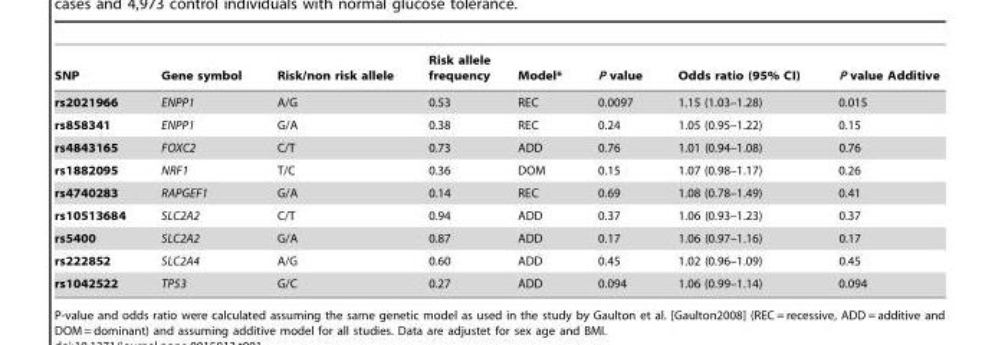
<table><thead><tr><td>SNP</td><td>Gene symbol</td><td>Risk/non risk allele</td><td>Risk allele frequency</td><td>Model*</td><td>P value</td><td>Odds ratio (95% CI)</td><td>P value Additive</td></tr></thead><tbody><tr><td>rs2021966</td><td>ENPP1</td><td>A/G</td><td>0.53</td><td>REC</td><td>0.0097</td><td>1.15 (1.03–1.28)</td><td>0.015</td></tr><tr><td>rs858341</td><td>ENPP1</td><td>G/A</td><td>0.38</td><td>REC</td><td>0.24</td><td>1.05 (0.95–1.22)</td><td>0.15</td></tr><tr><td>rs4843165</td><td>FOXC2</td><td>C/T</td><td>0.73</td><td>ADD</td><td>0.76</td><td>1.01 (0.94–1.08)</td><td>0.76</td></tr><tr><td>rs1882095</td><td>NRF1</td><td>T/C</td><td>0.36</td><td>DOM</td><td>0.15</td><td>1.07 (0.98–1.17)</td><td>0.26</td></tr><tr><td>rs4740283</td><td>RAPGEF1</td><td>G/A</td><td>0.14</td><td>REC</td><td>0.69</td><td>1.08 (0.78–1.49)</td><td>0.41</td></tr><tr><td>rs10513684</td><td>SLC2A2</td><td>C/T</td><td>0.94</td><td>ADD</td><td>0.37</td><td>1.06 (0.93–1.23)</td><td>0.37</td></tr><tr><td>rs5400</td><td>SLC2A2</td><td>G/A</td><td>0.87</td><td>ADD</td><td>0.17</td><td>1.06 (0.97–1.16)</td><td>0.17</td></tr><tr><td>rs222852</td><td>SLC2A4</td><td>A/G</td><td>0.60</td><td>ADD</td><td>0.45</td><td>1.02 (0.96–1.09)</td><td>0.45</td></tr><tr><td>rs1042522</td><td>TP53</td><td>G/C</td><td>0.27</td><td>ADD</td><td>0.094</td><td>1.06 (0.99–1.14)</td><td>0.094</td></tr></tbody></table>